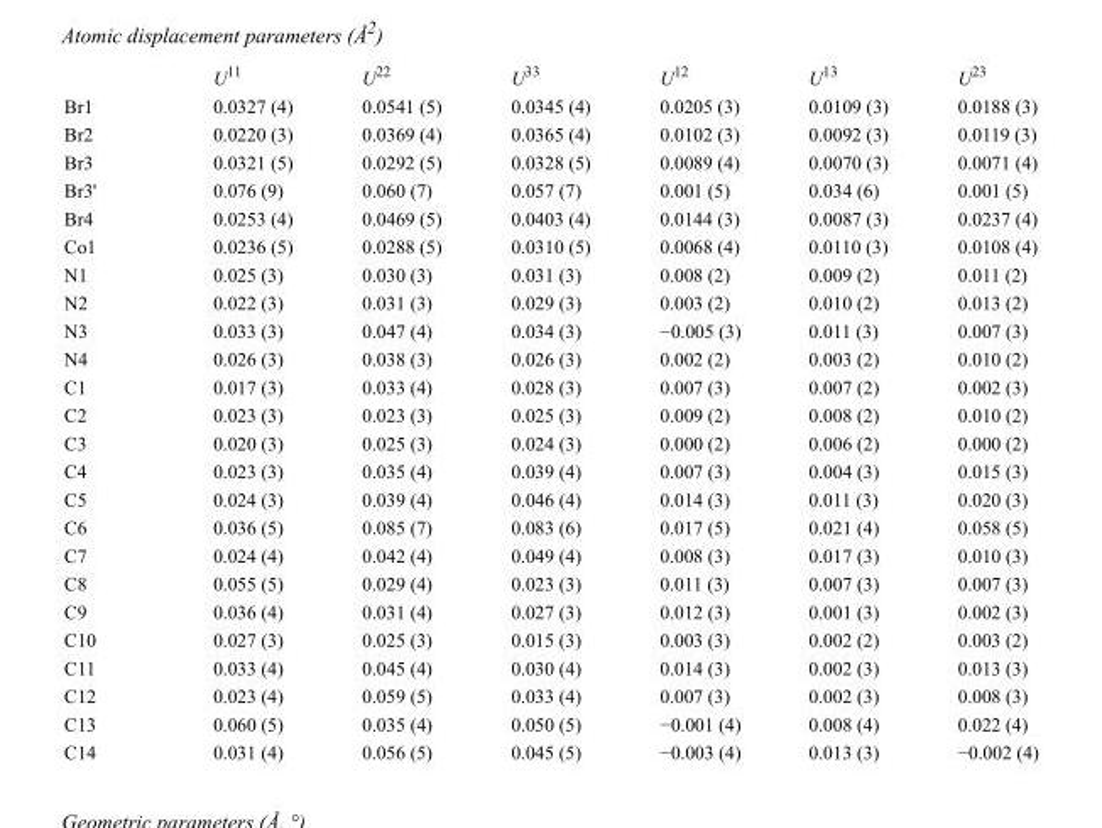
<table><thead><tr><td></td><td>U<sup>11</sup></td><td>U<sup>22</sup></td><td>U<sup>33</sup></td><td>U<sup>12</sup></td><td>U<sup>13</sup></td><td>U<sup>23</sup></td></tr></thead><tbody><tr><td>Br1</td><td>0.0327 (4)</td><td>0.0541 (5)</td><td>0.0345 (4)</td><td>0.0205 (3)</td><td>0.0109 (3)</td><td>0.0188 (3)</td></tr><tr><td>Br2</td><td>0.0220 (3)</td><td>0.0369 (4)</td><td>0.0365 (4)</td><td>0.0102 (3)</td><td>0.0092 (3)</td><td>0.0119 (3)</td></tr><tr><td>Br3</td><td>0.0321 (5)</td><td>0.0292 (5)</td><td>0.0328 (5)</td><td>0.0089 (4)</td><td>0.0070 (3)</td><td>0.0071 (4)</td></tr><tr><td>Br3&#x27;</td><td>0.076 (9)</td><td>0.060 (7)</td><td>0.057 (7)</td><td>0.001 (5)</td><td>0.034 (6)</td><td>0.001 (5)</td></tr><tr><td>Br4</td><td>0.0253 (4)</td><td>0.0469 (5)</td><td>0.0403 (4)</td><td>0.0144 (3)</td><td>0.0087 (3)</td><td>0.0237 (4)</td></tr><tr><td>Co1</td><td>0.0236 (5)</td><td>0.0288 (5)</td><td>0.0310 (5)</td><td>0.0068 (4)</td><td>0.0110 (3)</td><td>0.0108 (4)</td></tr><tr><td>N1</td><td>0.025 (3)</td><td>0.030 (3)</td><td>0.031 (3)</td><td>0.008 (2)</td><td>0.009 (2)</td><td>0.011 (2)</td></tr><tr><td>N2</td><td>0.022 (3)</td><td>0.031 (3)</td><td>0.029 (3)</td><td>0.003 (2)</td><td>0.010 (2)</td><td>0.013 (2)</td></tr><tr><td>N3</td><td>0.033 (3)</td><td>0.047 (4)</td><td>0.034 (3)</td><td>−0.005 (3)</td><td>0.011 (3)</td><td>0.007 (3)</td></tr><tr><td>N4</td><td>0.026 (3)</td><td>0.038 (3)</td><td>0.026 (3)</td><td>0.002 (2)</td><td>0.003 (2)</td><td>0.010 (2)</td></tr><tr><td>C1</td><td>0.017 (3)</td><td>0.033 (4)</td><td>0.028 (3)</td><td>0.007 (3)</td><td>0.007 (2)</td><td>0.002 (3)</td></tr><tr><td>C2</td><td>0.023 (3)</td><td>0.023 (3)</td><td>0.025 (3)</td><td>0.009 (2)</td><td>0.008 (2)</td><td>0.010 (2)</td></tr><tr><td>C3</td><td>0.020 (3)</td><td>0.025 (3)</td><td>0.024 (3)</td><td>0.000 (2)</td><td>0.006 (2)</td><td>0.000 (2)</td></tr><tr><td>C4</td><td>0.023 (3)</td><td>0.035 (4)</td><td>0.039 (4)</td><td>0.007 (3)</td><td>0.004 (3)</td><td>0.015 (3)</td></tr><tr><td>C5</td><td>0.024 (3)</td><td>0.039 (4)</td><td>0.046 (4)</td><td>0.014 (3)</td><td>0.011 (3)</td><td>0.020 (3)</td></tr><tr><td>C6</td><td>0.036 (5)</td><td>0.085 (7)</td><td>0.083 (6)</td><td>0.017 (5)</td><td>0.021 (4)</td><td>0.058 (5)</td></tr><tr><td>C7</td><td>0.024 (4)</td><td>0.042 (4)</td><td>0.049 (4)</td><td>0.008 (3)</td><td>0.017 (3)</td><td>0.010 (3)</td></tr><tr><td>C8</td><td>0.055 (5)</td><td>0.029 (4)</td><td>0.023 (3)</td><td>0.011 (3)</td><td>0.007 (3)</td><td>0.007 (3)</td></tr><tr><td>C9</td><td>0.036 (4)</td><td>0.031 (4)</td><td>0.027 (3)</td><td>0.012 (3)</td><td>0.001 (3)</td><td>0.002 (3)</td></tr><tr><td>C10</td><td>0.027 (3)</td><td>0.025 (3)</td><td>0.015 (3)</td><td>0.003 (3)</td><td>0.002 (2)</td><td>0.003 (2)</td></tr><tr><td>C11</td><td>0.033 (4)</td><td>0.045 (4)</td><td>0.030 (4)</td><td>0.014 (3)</td><td>0.002 (3)</td><td>0.013 (3)</td></tr><tr><td>C12</td><td>0.023 (4)</td><td>0.059 (5)</td><td>0.033 (4)</td><td>0.007 (3)</td><td>0.002 (3)</td><td>0.008 (3)</td></tr><tr><td>C13</td><td>0.060 (5)</td><td>0.035 (4)</td><td>0.050 (5)</td><td>−0.001 (4)</td><td>0.008 (4)</td><td>0.022 (4)</td></tr><tr><td>C14</td><td>0.031 (4)</td><td>0.056 (5)</td><td>0.045 (5)</td><td>−0.003 (4)</td><td>0.013 (3)</td><td>−0.002 (4)</td></tr></tbody></table>